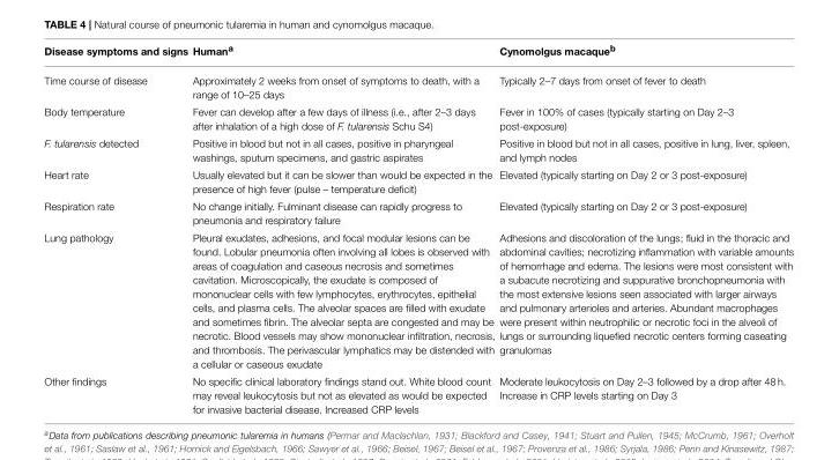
<table><thead><tr><td colspan="2">Disease symptoms and signs Human<sup>a</sup></td><td rowspan="2">Cynomolgus macaque<sup>b</sup> Typically 2–7 days from onset of fever to death</td></tr><tr><td>Time course of disease</td><td>Approximately 2 weeks from onset of symptoms to death, with a range of 10–25 days</td></tr></thead><tbody><tr><td>Body temperature</td><td>Fever can develop after a few days of illness (i.e., after 2–3 days after inhalation of a high dose of F. tularensis Schu S4)</td><td>Fever in 100% of cases (typically starting on Day 2–3 post-exposure)</td></tr><tr><td>F. tularensis detected</td><td>Positive in blood but not in all cases, positive in pharyngeal washings, sputum specimens, and gastric aspirates</td><td>Positive in blood but not in all cases, positive in lung, liver, spleen, and lymph nodes</td></tr><tr><td>Heart rate</td><td>Usually elevated but it can be slower than would be expected in the presence of high fever (pulse – temperature deficit)</td><td>Elevated (typically starting on Day 2 or 3 post-exposure)</td></tr><tr><td>Respiration rate</td><td>No change initially. Fulminant disease can rapidly progress to pneumonia and respiratory failure</td><td>Elevated (typically starting on Day 2 or 3 post-exposure)</td></tr><tr><td>Lung pathology</td><td>Pleural exudates, adhesions, and focal modular lesions can be found. Lobular pneumonia often involving all lobes is observed with areas of coagulation and caseous necrosis and sometimes cavitation. Microscopically, the exudate is composed of mononuclear cells with few lymphocytes, erythrocytes, epithelial cells, and plasma cells. The alveolar spaces are filled with exudate and sometimes fibrin. The alveolar septa are congested and may be necrotic. Blood vessels may show mononuclear infiltration, necrosis, and thrombosis. The perivascular lymphatics may be distended with a cellular or caseous exudate</td><td>Adhesions and discoloration of the lungs; fluid in the thoracic and abdominal cavities; necrotizing inflammation with variable amounts of hemorrhage and edema. The lesions were most consistent with a subacute necrotizing and suppurative bronchopneumonia with the most extensive lesions seen associated with larger airways and pulmonary arterioles and arteries. Abundant macrophages were present within neutrophilic or necrotic foci in the alveoli of lungs or surrounding liquefied necrotic centers forming caseating granulomas</td></tr><tr><td>Other findings</td><td>No specific clinical laboratory findings stand out. White blood count may reveal leukocytosis but not as elevated as would be expected for invasive bacterial disease. Increased CRP levels</td><td>Moderate leukocytosis on Day 2–3 followed by a drop after 48 h. Increase in CRP levels starting on Day 3</td></tr></tbody></table>